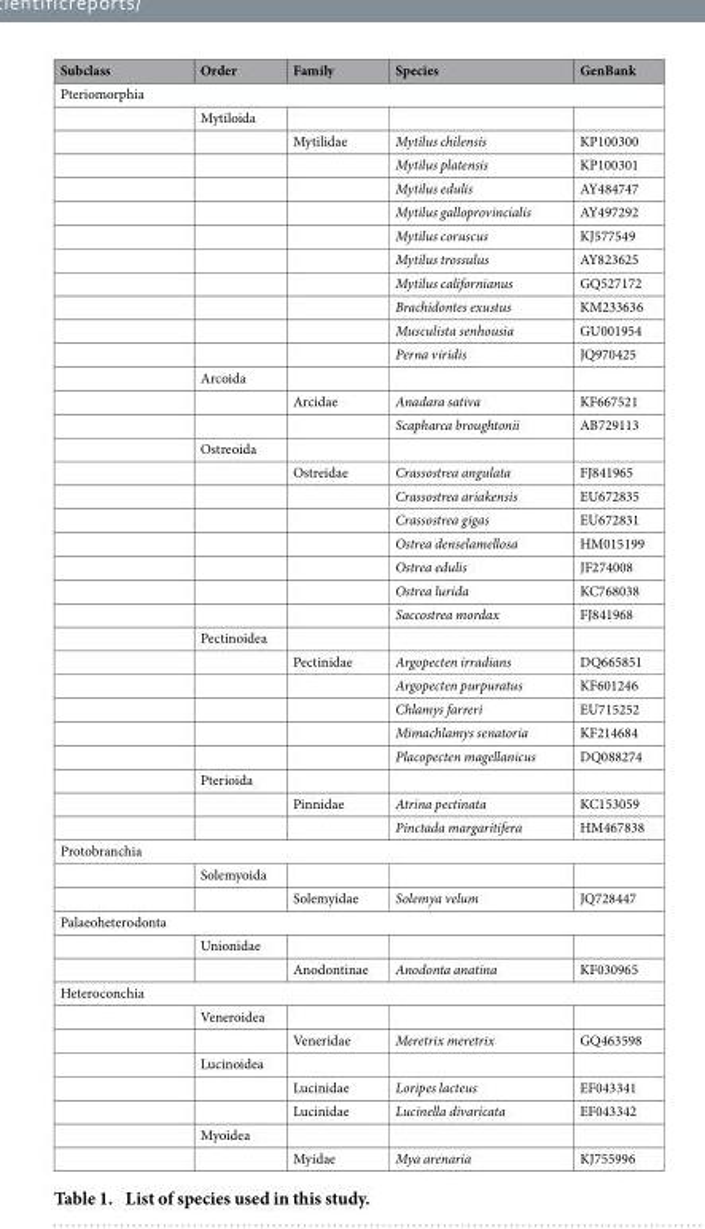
<table><thead><tr><td>Subclass</td><td>Order</td><td>Family</td><td>Species</td><td>GenBank</td></tr></thead><tbody><tr><td colspan="5">Pteriomorphia</td></tr><tr><td></td><td>Mytiloida</td><td></td><td></td><td></td></tr><tr><td></td><td></td><td>Mytilidae</td><td>Mytilus chilensis</td><td>KP100300</td></tr><tr><td></td><td></td><td></td><td>Mytilus platensis</td><td>KP100301</td></tr><tr><td></td><td></td><td></td><td>Mytilus edulis</td><td>AY484747</td></tr><tr><td></td><td></td><td></td><td>Mytilus galloprovincialis</td><td>AY497292</td></tr><tr><td></td><td></td><td></td><td>Mytilus coruscus</td><td>KJ577549</td></tr><tr><td></td><td></td><td></td><td>Mytilus trossulus</td><td>AY823625</td></tr><tr><td></td><td></td><td></td><td>Mytilus californianus</td><td>GQ527172</td></tr><tr><td></td><td></td><td></td><td>Brachidontes exustus</td><td>KM233636</td></tr><tr><td></td><td></td><td></td><td>Musculista senhousia</td><td>GU001954</td></tr><tr><td></td><td></td><td></td><td>Perna viridis</td><td>JQ970425</td></tr><tr><td></td><td>Arcoida</td><td></td><td></td><td></td></tr><tr><td></td><td></td><td>Arcidae</td><td>Anadara sativa</td><td>KF667521</td></tr><tr><td></td><td></td><td></td><td>Scapharca broughtonii</td><td>AB729113</td></tr><tr><td></td><td>Ostreoida</td><td></td><td></td><td></td></tr><tr><td></td><td></td><td>Ostreidae</td><td>Crassostrea angulata</td><td>FJ841965</td></tr><tr><td></td><td></td><td></td><td>Crassostrea ariakensis</td><td>EU672835</td></tr><tr><td></td><td></td><td></td><td>Crassostrea gigas</td><td>EU672831</td></tr><tr><td></td><td></td><td></td><td>Ostrea denselamellosa</td><td>HM015199</td></tr><tr><td></td><td></td><td></td><td>Ostrea edulis</td><td>JF274008</td></tr><tr><td></td><td></td><td></td><td>Ostrea lurida</td><td>KC768038</td></tr><tr><td></td><td></td><td></td><td>Saccostrea mordax</td><td>FJ841968</td></tr><tr><td></td><td>Pectinoidea</td><td></td><td></td><td></td></tr><tr><td></td><td></td><td>Pectinidae</td><td>Argopecten irradians</td><td>DQ665851</td></tr><tr><td></td><td></td><td></td><td>Argopecten purpuratus</td><td>KF601246</td></tr><tr><td></td><td></td><td></td><td>Chlamys farreri</td><td>EU715252</td></tr><tr><td></td><td></td><td></td><td>Mimachlamys senatoria</td><td>KF214684</td></tr><tr><td></td><td></td><td></td><td>Placopecten magellanicus</td><td>DQ088274</td></tr><tr><td></td><td>Pterioida</td><td></td><td></td><td></td></tr><tr><td></td><td></td><td>Pinnidae</td><td>Atrina pectinata</td><td>KC153059</td></tr><tr><td></td><td></td><td></td><td>Pinctada margaritifera</td><td>HM467838</td></tr><tr><td colspan="5">Protobranchia</td></tr><tr><td></td><td>Solemyoida</td><td></td><td></td><td></td></tr><tr><td></td><td></td><td>Solemyidae</td><td>Solemya velum</td><td>JQ728447</td></tr><tr><td colspan="5">Palaeoheterodonta</td></tr><tr><td></td><td>Unionidae</td><td></td><td></td><td></td></tr><tr><td></td><td></td><td>Anodontinae</td><td>Anodonta anatina</td><td>KF030965</td></tr><tr><td colspan="5">Heteroconchia</td></tr><tr><td></td><td>Veneroidea</td><td></td><td></td><td></td></tr><tr><td></td><td></td><td>Veneridae</td><td>Meretrix meretrix</td><td>GQ463598</td></tr><tr><td></td><td>Lucinoidea</td><td></td><td></td><td></td></tr><tr><td></td><td></td><td>Lucinidae</td><td>Loripes lacteus</td><td>EF043341</td></tr><tr><td></td><td></td><td>Lucinidae</td><td>Lucinella divaricata</td><td>EF043342</td></tr><tr><td></td><td>Myoidea</td><td></td><td></td><td></td></tr><tr><td></td><td></td><td>Myidae</td><td>Mya arenaria</td><td>KJ755996</td></tr></tbody></table>